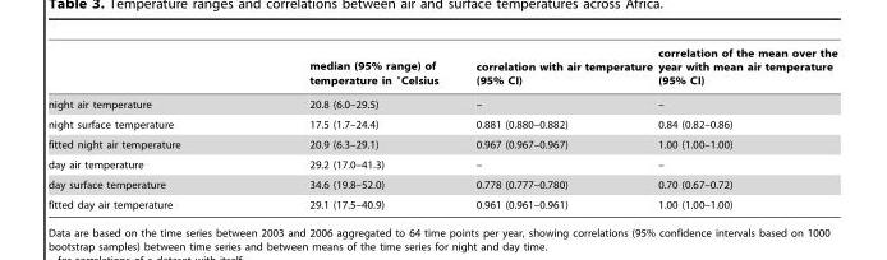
<table><thead><tr><td></td><td>median (95% range) of temperature in °Celsius</td><td>correlation with air temperature (95% CI)</td><td>correlation of the mean over the year with mean air temperature (95% CI)</td></tr></thead><tbody><tr><td>night air temperature</td><td>20.8 (6.0–29.5)</td><td>–</td><td>–</td></tr><tr><td>night surface temperature</td><td>17.5 (1.7–24.4)</td><td>0.881 (0.880–0.882)</td><td>0.84 (0.82–0.86)</td></tr><tr><td>fitted night air temperature</td><td>20.9 (6.3–29.1)</td><td>0.967 (0.967–0.967)</td><td>1.00 (1.00–1.00)</td></tr><tr><td>day air temperature</td><td>29.2 (17.0–41.3)</td><td>–</td><td>–</td></tr><tr><td>day surface temperature</td><td>34.6 (19.8–52.0)</td><td>0.778 (0.777–0.780)</td><td>0.70 (0.67–0.72)</td></tr><tr><td>fitted day air temperature</td><td>29.1 (17.5–40.9)</td><td>0.961 (0.961–0.961)</td><td>1.00 (1.00–1.00)</td></tr></tbody></table>